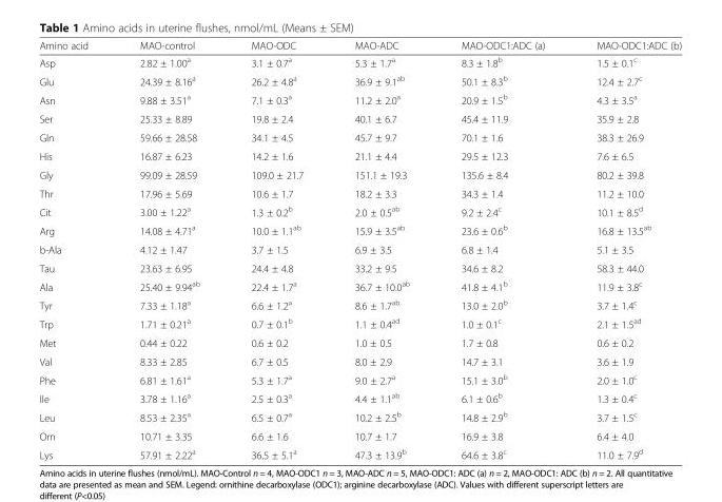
<table><thead><tr><td>Amino acid</td><td>MAO-control</td><td>MAO-ODC</td><td>MAO-ADC</td><td>MAO-ODC1:ADC (a)</td><td>MAO-ODC1:ADC (b)</td></tr></thead><tbody><tr><td>Asp</td><td>2.82 ± 1.00<sup>a</sup></td><td>3.1 ± 0.7<sup>a</sup></td><td>5.3 ± 1.7<sup>a</sup></td><td>8.3 ± 1.8<sup>b</sup></td><td>1.5 ± 0.1<sup>c</sup></td></tr><tr><td>Glu</td><td>24.39 ± 8.16<sup>a</sup></td><td>26.2 ± 4.8<sup>a</sup></td><td>36.9 ± 9.1<sup>ab</sup></td><td>50.1 ± 8.3<sup>b</sup></td><td>12.4 ± 2.7<sup>c</sup></td></tr><tr><td>Asn</td><td>9.88 ± 3.51<sup>a</sup></td><td>7.1 ± 0.3<sup>a</sup></td><td>11.2 ± 2.0<sup>a</sup></td><td>20.9 ± 1.5<sup>b</sup></td><td>4.3 ± 3.5<sup>a</sup></td></tr><tr><td>Ser</td><td>25.33 ± 8.89</td><td>19.8 ± 2.4</td><td>40.1 ± 6.7</td><td>45.4 ± 11.9</td><td>35.9 ± 2.8</td></tr><tr><td>Gln</td><td>59.66 ± 28.58</td><td>34.1 ± 4.5</td><td>45.7 ± 9.7</td><td>70.1 ± 1.6</td><td>38.3 ± 26.9</td></tr><tr><td>His</td><td>16.87 ± 6.23</td><td>14.2 ± 1.6</td><td>21.1 ± 4.4</td><td>29.5 ± 12.3</td><td>7.6 ± 6.5</td></tr><tr><td>Gly</td><td>99.09 ± 28.59</td><td>109.0 ± 21.7</td><td>151.1 ± 19.3</td><td>135.6 ± 8.4</td><td>80.2 ± 39.8</td></tr><tr><td>Thr</td><td>17.96 ± 5.69</td><td>10.6 ± 1.7</td><td>18.2 ± 3.3</td><td>34.3 ± 1.4</td><td>11.2 ± 10.0</td></tr><tr><td>Cit</td><td>3.00 ± 1.22<sup>a</sup></td><td>1.3 ± 0.2<sup>b</sup></td><td>2.0 ± 0.5<sup>ab</sup></td><td>9.2 ± 2.4<sup>c</sup></td><td>10.1 ± 8.5<sup>d</sup></td></tr><tr><td>Arg</td><td>14.08 ± 4.71<sup>a</sup></td><td>10.0 ± 1.1<sup>ab</sup></td><td>15.9 ± 3.5<sup>ab</sup></td><td>23.6 ± 0.6<sup>b</sup></td><td>16.8 ± 13.5<sup>ab</sup></td></tr><tr><td>b-Ala</td><td>4.12 ± 1.47</td><td>3.7 ± 1.5</td><td>6.9 ± 3.5</td><td>6.8 ± 1.4</td><td>5.1 ± 3.5</td></tr><tr><td>Tau</td><td>23.63 ± 6.95</td><td>24.4 ± 4.8</td><td>33.2 ± 9.5</td><td>34.6 ± 8.2</td><td>58.3 ± 44.0</td></tr><tr><td>Ala</td><td>25.40 ± 9.94<sup>ab</sup></td><td>22.4 ± 1.7<sup>a</sup></td><td>36.7 ± 10.0<sup>ab</sup></td><td>41.8 ± 4.1<sup>b</sup></td><td>11.9 ± 3.8<sup>c</sup></td></tr><tr><td>Tyr</td><td>7.33 ± 1.18<sup>a</sup></td><td>6.6 ± 1.2<sup>a</sup></td><td>8.6 ± 1.7<sup>ab</sup></td><td>13.0 ± 2.0<sup>b</sup></td><td>3.7 ± 1.4<sup>c</sup></td></tr><tr><td>Trp</td><td>1.71 ± 0.21<sup>a</sup></td><td>0.7 ± 0.1<sup>b</sup></td><td>1.1 ± 0.4<sup>ad</sup></td><td>1.0 ± 0.1<sup>c</sup></td><td>2.1 ± 1.5<sup>ad</sup></td></tr><tr><td>Met</td><td>0.44 ± 0.22</td><td>0.6 ± 0.2</td><td>1.0 ± 0.5</td><td>1.7 ± 0.8</td><td>0.6 ± 0.2</td></tr><tr><td>Val</td><td>8.33 ± 2.85</td><td>6.7 ± 0.5</td><td>8.0 ± 2.9</td><td>14.7 ± 3.1</td><td>3.6 ± 1.9</td></tr><tr><td>Phe</td><td>6.81 ± 1.61<sup>a</sup></td><td>5.3 ± 1.7<sup>a</sup></td><td>9.0 ± 2.7<sup>a</sup></td><td>15.1 ± 3.0<sup>b</sup></td><td>2.0 ± 1.0<sup>c</sup></td></tr><tr><td>Ile</td><td>3.78 ± 1.16<sup>a</sup></td><td>2.5 ± 0.3<sup>a</sup></td><td>4.4 ± 1.1<sup>ab</sup></td><td>6.1 ± 0.6<sup>b</sup></td><td>1.3 ± 0.4<sup>c</sup></td></tr><tr><td>Leu</td><td>8.53 ± 2.35<sup>a</sup></td><td>6.5 ± 0.7<sup>a</sup></td><td>10.2 ± 2.5<sup>b</sup></td><td>14.8 ± 2.9<sup>b</sup></td><td>3.7 ± 1.5<sup>c</sup></td></tr><tr><td>Orn</td><td>10.71 ± 3.35</td><td>6.6 ± 1.6</td><td>10.7 ± 1.7</td><td>16.9 ± 3.8</td><td>6.4 ± 4.0</td></tr><tr><td>Lys</td><td>57.91 ± 2.22<sup>a</sup></td><td>36.5 ± 5.1<sup>a</sup></td><td>47.3 ± 13.9<sup>b</sup></td><td>64.6 ± 3.8<sup>c</sup></td><td>11.0 ± 7.9<sup>d</sup></td></tr></tbody></table>